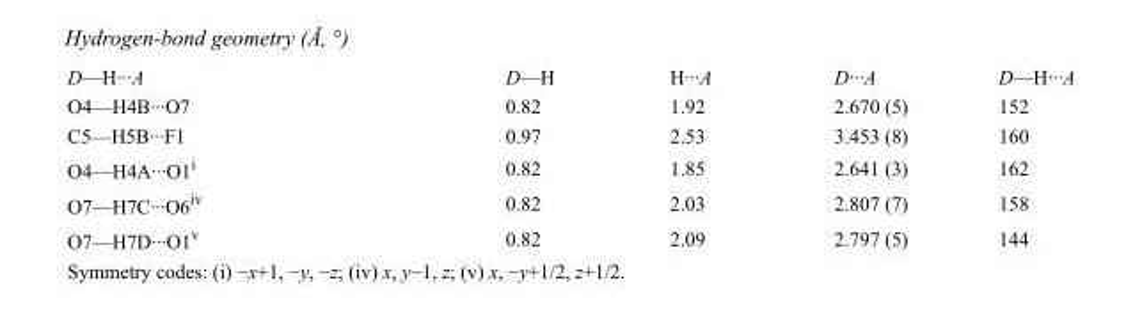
<table><tbody><tr><td>D—H···A</td><td>D—H</td><td>H···A</td><td>D···A</td><td>D—H···A</td></tr><tr><td>O4—H4B···O7</td><td>0.82</td><td>1.92</td><td>2.670 (5)</td><td>152</td></tr><tr><td>C5—H5B···F1</td><td>0.97</td><td>2.53</td><td>3.453 (8)</td><td>160</td></tr><tr><td>O4—H4A···O1<sup>i</sup></td><td>0.82</td><td>1.85</td><td>2.641 (3)</td><td>162</td></tr><tr><td>O7—H7C···O6<sup>iv</sup></td><td>0.82</td><td>2.03</td><td>2.807 (7)</td><td>158</td></tr><tr><td>O7—H7D···O1<sup>v</sup></td><td>0.82</td><td>2.09</td><td>2.797 (5)</td><td>144</td></tr></tbody></table>